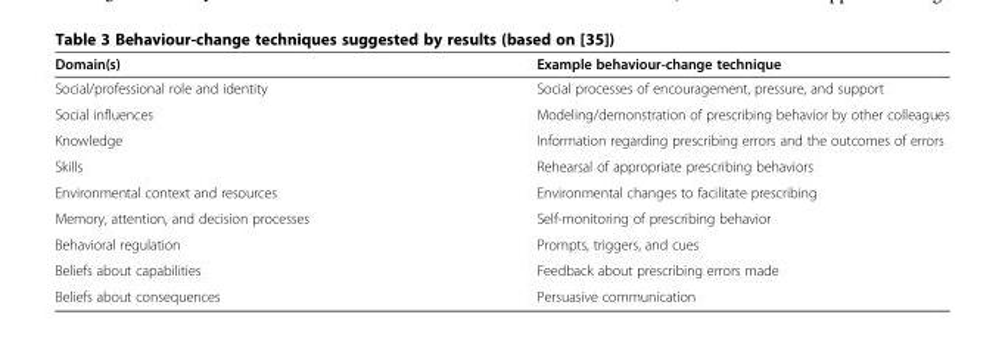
<table><thead><tr><td>Domain(s)</td><td>Example behaviour-change technique</td></tr></thead><tbody><tr><td>Social/professional role and identity</td><td>Social processes of encouragement, pressure, and support</td></tr><tr><td>Social influences</td><td>Modeling/demonstration of prescribing behavior by other colleagues</td></tr><tr><td>Knowledge</td><td>Information regarding prescribing errors and the outcomes of errors</td></tr><tr><td>Skills</td><td>Rehearsal of appropriate prescribing behaviors</td></tr><tr><td>Environmental context and resources</td><td>Environmental changes to facilitate prescribing</td></tr><tr><td>Memory, attention, and decision processes</td><td>Self-monitoring of prescribing behavior</td></tr><tr><td>Behavioral regulation</td><td>Prompts, triggers, and cues</td></tr><tr><td>Beliefs about capabilities</td><td>Feedback about prescribing errors made</td></tr><tr><td>Beliefs about consequences</td><td>Persuasive communication</td></tr></tbody></table>